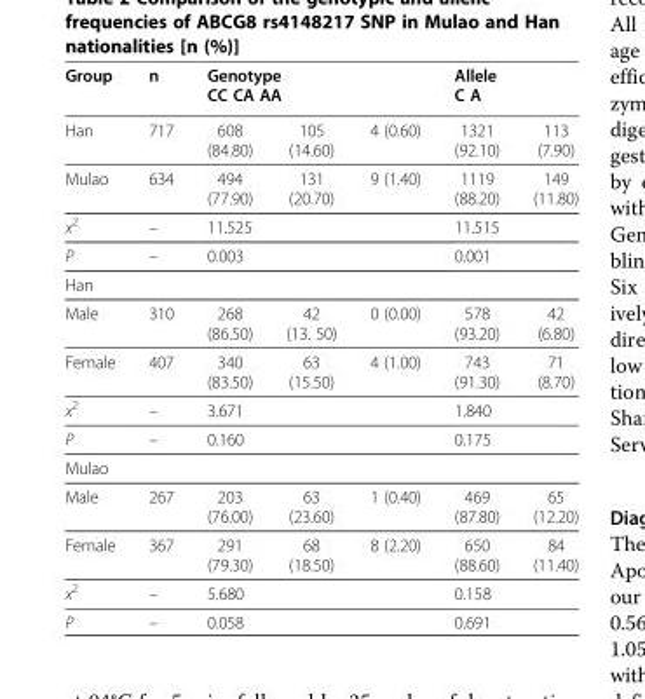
<table><thead><tr><td rowspan="2">Group Han</td><td rowspan="2">n 717</td><td colspan="3">Genotype CC CA AA</td><td colspan="2">Allele C A</td></tr><tr><td>608 (84.80)</td><td>105 (14.60)</td><td>4 (0.60)</td><td>1321 (92.10)</td><td>113 (7.90)</td></tr></thead><tbody><tr><td>Mulao</td><td>634</td><td>494 (77.90)</td><td>131 (20.70)</td><td>9 (1.40)</td><td>1119 (88.20)</td><td>149 (11.80)</td></tr><tr><td>x<sup>2</sup></td><td>–</td><td colspan="3">11.525</td><td colspan="2">11.515</td></tr><tr><td>P</td><td>–</td><td colspan="3">0.003</td><td colspan="2">0.001</td></tr><tr><td colspan="7">Han</td></tr><tr><td>Male</td><td>310</td><td>268 (86.50)</td><td>42 (13. 50)</td><td>0 (0.00)</td><td>578 (93.20)</td><td>42 (6.80)</td></tr><tr><td>Female</td><td>407</td><td>340 (83.50)</td><td>63 (15.50)</td><td>4 (1.00)</td><td>743 (91.30)</td><td>71 (8.70)</td></tr><tr><td>x<sup>2</sup></td><td>–</td><td colspan="3">3.671</td><td colspan="2">1.840</td></tr><tr><td>P</td><td>–</td><td colspan="3">0.160</td><td colspan="2">0.175</td></tr><tr><td colspan="7">Mulao</td></tr><tr><td>Male</td><td>267</td><td>203 (76.00)</td><td>63 (23.60)</td><td>1 (0.40)</td><td>469 (87.80)</td><td>65 (12.20)</td></tr><tr><td>Female</td><td>367</td><td>291 (79.30)</td><td>68 (18.50)</td><td>8 (2.20)</td><td>650 (88.60)</td><td>84 (11.40)</td></tr><tr><td>x<sup>2</sup></td><td>–</td><td colspan="3">5.680</td><td colspan="2">0.158</td></tr><tr><td>P</td><td>–</td><td colspan="3">0.058</td><td colspan="2">0.691</td></tr></tbody></table>